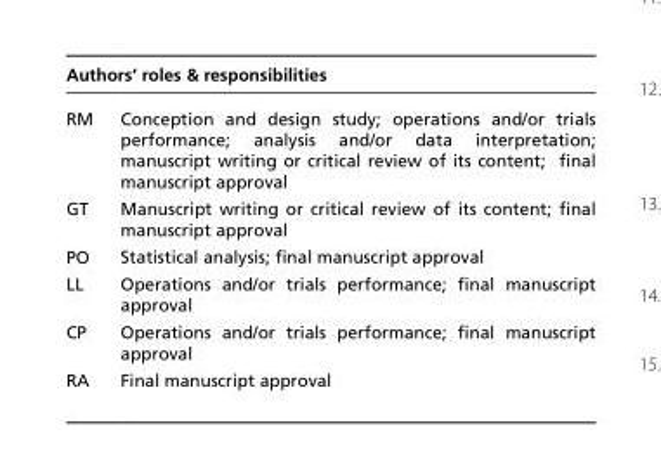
<table><thead><tr><td colspan="2">Authors’ roles &amp; responsibilities</td></tr><tr><td>RM</td><td>Conception and design study; operations and/or trials performance; analysis and/or data interpretation; manuscript writing or critical review of its content; final manuscript approval</td></tr></thead><tbody><tr><td>GT</td><td>Manuscript writing or critical review of its content; final manuscript approval</td></tr><tr><td>PO</td><td>Statistical analysis; final manuscript approval</td></tr><tr><td>LL</td><td>Operations and/or trials performance; final manuscript approval</td></tr><tr><td>CP</td><td>Operations and/or trials performance; final manuscript approval</td></tr><tr><td>RA</td><td>Final manuscript approval</td></tr></tbody></table>